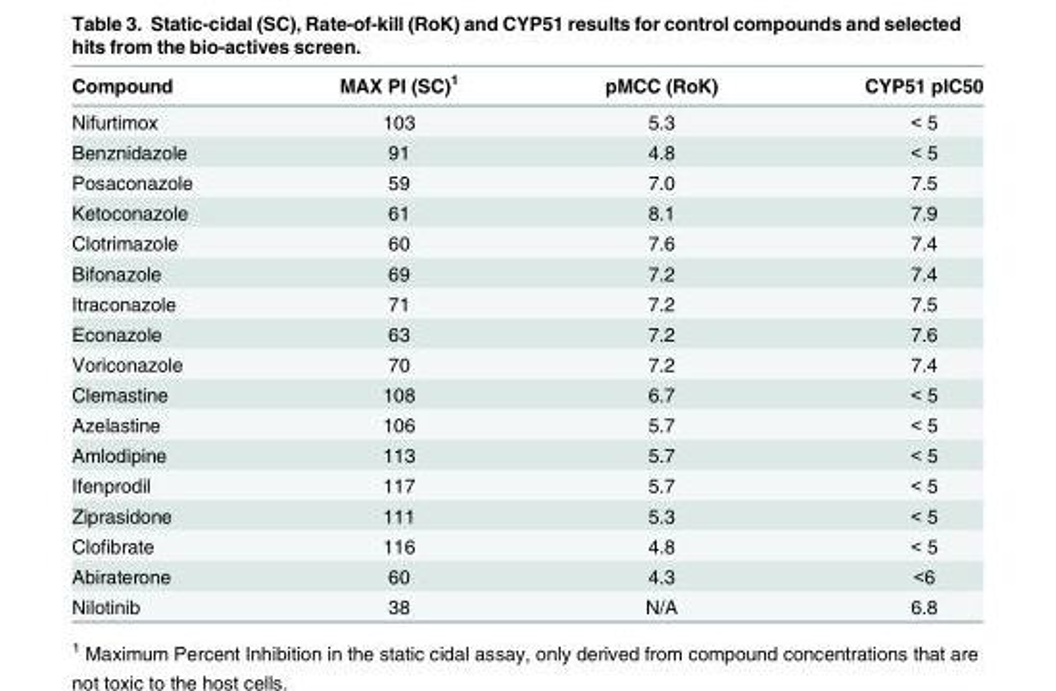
<table><thead><tr><td>Compound</td><td>MAX PI (SC)<sup>1</sup></td><td>pMCC (RoK)</td><td>CYP51 pIC50</td></tr></thead><tbody><tr><td>Nifurtimox</td><td>103</td><td>5.3</td><td>&lt; 5</td></tr><tr><td>Benznidazole</td><td>91</td><td>4.8</td><td>&lt; 5</td></tr><tr><td>Posaconazole</td><td>59</td><td>7.0</td><td>7.5</td></tr><tr><td>Ketoconazole</td><td>61</td><td>8.1</td><td>7.9</td></tr><tr><td>Clotrimazole</td><td>60</td><td>7.6</td><td>7.4</td></tr><tr><td>Bifonazole</td><td>69</td><td>7.2</td><td>7.4</td></tr><tr><td>Itraconazole</td><td>71</td><td>7.2</td><td>7.5</td></tr><tr><td>Econazole</td><td>63</td><td>7.2</td><td>7.6</td></tr><tr><td>Voriconazole</td><td>70</td><td>7.2</td><td>7.4</td></tr><tr><td>Clemastine</td><td>108</td><td>6.7</td><td>&lt; 5</td></tr><tr><td>Azelastine</td><td>106</td><td>5.7</td><td>&lt; 5</td></tr><tr><td>Amlodipine</td><td>113</td><td>5.7</td><td>&lt; 5</td></tr><tr><td>Ifenprodil</td><td>117</td><td>5.7</td><td>&lt; 5</td></tr><tr><td>Ziprasidone</td><td>111</td><td>5.3</td><td>&lt; 5</td></tr><tr><td>Clofibrate</td><td>116</td><td>4.8</td><td>&lt; 5</td></tr><tr><td>Abiraterone</td><td>60</td><td>4.3</td><td>&lt;6</td></tr><tr><td>Nilotinib</td><td>38</td><td>N/A</td><td>6.8</td></tr></tbody></table>